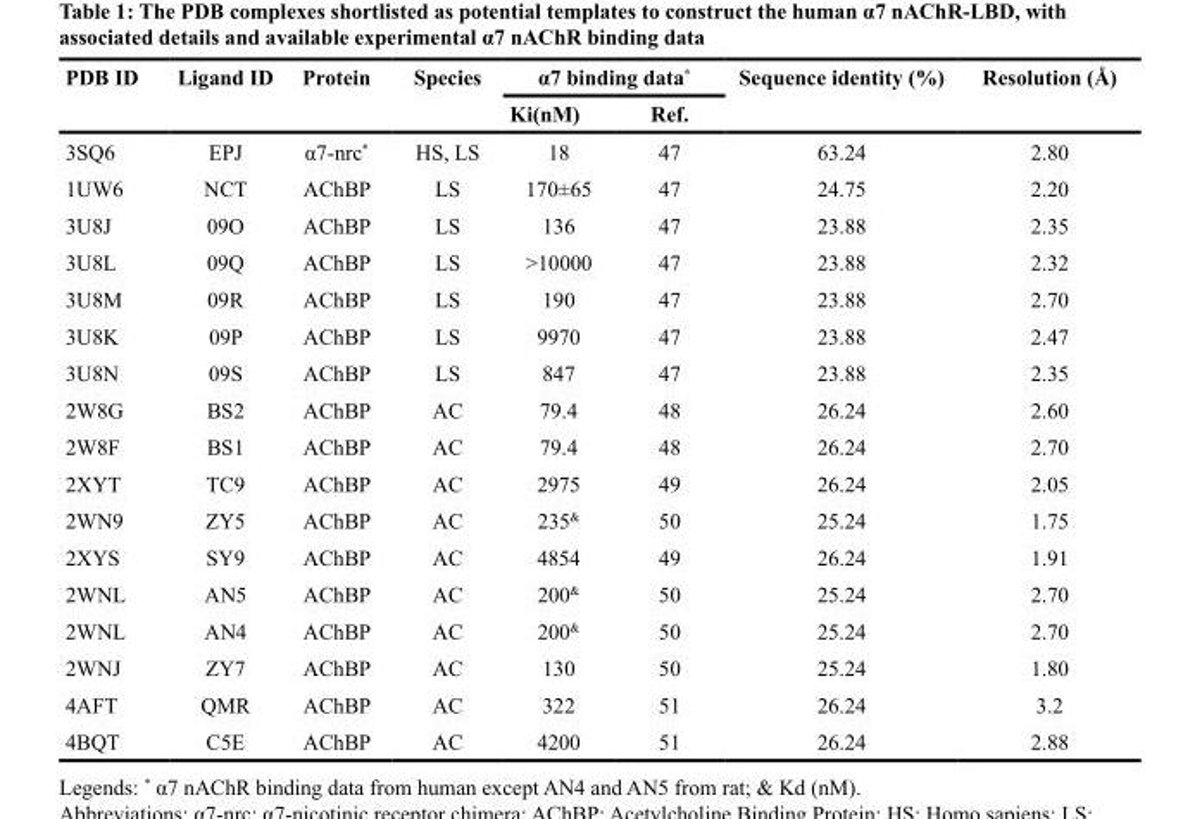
<table><thead><tr><td rowspan="2">PDB ID</td><td rowspan="2">Ligand ID</td><td rowspan="2">Protein</td><td rowspan="2">Species</td><td colspan="2">α7 binding data*</td><td rowspan="2">Sequence identity (%)</td><td rowspan="2">Resolution (Å)</td></tr><tr><td>Ki(nM)</td><td>Ref.</td></tr></thead><tbody><tr><td>3SQ6</td><td>EPJ</td><td>α7-nrc*</td><td>HS, LS</td><td>18</td><td>47</td><td>63.24</td><td>2.80</td></tr><tr><td>1UW6</td><td>NCT</td><td>AChBP</td><td>LS</td><td>170±65</td><td>47</td><td>24.75</td><td>2.20</td></tr><tr><td>3U8J</td><td>09O</td><td>AChBP</td><td>LS</td><td>136</td><td>47</td><td>23.88</td><td>2.35</td></tr><tr><td>3U8L</td><td>09Q</td><td>AChBP</td><td>LS</td><td>&gt;10000</td><td>47</td><td>23.88</td><td>2.32</td></tr><tr><td>3U8M</td><td>09R</td><td>AChBP</td><td>LS</td><td>190</td><td>47</td><td>23.88</td><td>2.70</td></tr><tr><td>3U8K</td><td>09P</td><td>AChBP</td><td>LS</td><td>9970</td><td>47</td><td>23.88</td><td>2.47</td></tr><tr><td>3U8N</td><td>09S</td><td>AChBP</td><td>LS</td><td>847</td><td>47</td><td>23.88</td><td>2.35</td></tr><tr><td>2W8G</td><td>BS2</td><td>AChBP</td><td>AC</td><td>79.4</td><td>48</td><td>26.24</td><td>2.60</td></tr><tr><td>2W8F</td><td>BS1</td><td>AChBP</td><td>AC</td><td>79.4</td><td>48</td><td>26.24</td><td>2.70</td></tr><tr><td>2XYT</td><td>TC9</td><td>AChBP</td><td>AC</td><td>2975</td><td>49</td><td>26.24</td><td>2.05</td></tr><tr><td>2WN9</td><td>ZY5</td><td>AChBP</td><td>AC</td><td>235<sup>&amp;</sup></td><td>50</td><td>25.24</td><td>1.75</td></tr><tr><td>2XYS</td><td>SY9</td><td>AChBP</td><td>AC</td><td>4854</td><td>49</td><td>26.24</td><td>1.91</td></tr><tr><td>2WNL</td><td>AN5</td><td>AChBP</td><td>AC</td><td>200<sup>&amp;</sup></td><td>50</td><td>25.24</td><td>2.70</td></tr><tr><td>2WNL</td><td>AN4</td><td>AChBP</td><td>AC</td><td>200<sup>&amp;</sup></td><td>50</td><td>25.24</td><td>2.70</td></tr><tr><td>2WNJ</td><td>ZY7</td><td>AChBP</td><td>AC</td><td>130</td><td>50</td><td>25.24</td><td>1.80</td></tr><tr><td>4AFT</td><td>QMR</td><td>AChBP</td><td>AC</td><td>322</td><td>51</td><td>26.24</td><td>3.2</td></tr><tr><td>4BQT</td><td>C5E</td><td>AChBP</td><td>AC</td><td>4200</td><td>51</td><td>26.24</td><td>2.88</td></tr></tbody></table>